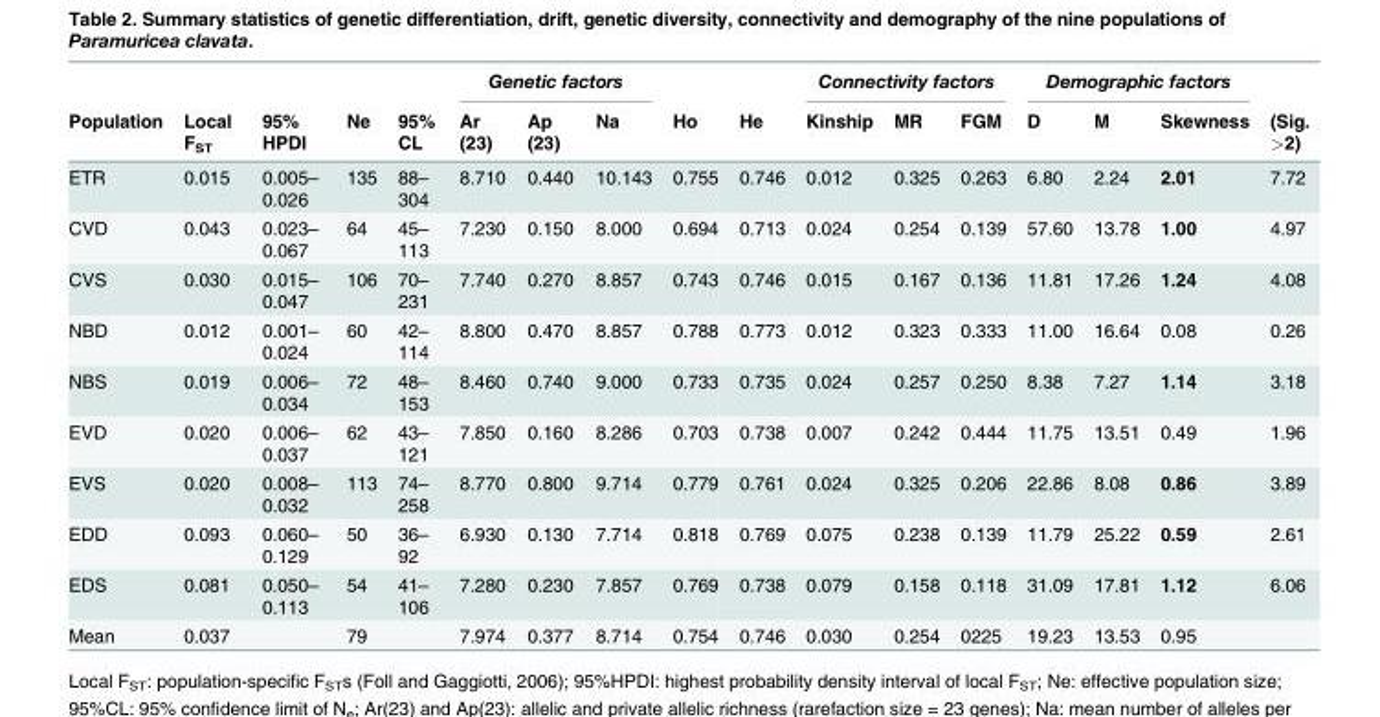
<table><thead><tr><td rowspan="2">Population</td><td rowspan="2">Local F<sub>ST</sub></td><td rowspan="2">95% HPDI</td><td rowspan="2">Ne</td><td rowspan="2">95% CL</td><td colspan="3">Genetic factors</td><td rowspan="2">Ho</td><td rowspan="2">He</td><td colspan="3">Connectivity factors</td><td colspan="3">Demographic factors</td><td rowspan="2">(Sig. &gt;2)</td></tr><tr><td>Ar (23)</td><td>Ap (23)</td><td>Na</td><td>Kinship</td><td>MR</td><td>FGM</td><td>D</td><td>M</td><td>Skewness</td></tr></thead><tbody><tr><td>ETR</td><td>0.015</td><td>0.005– 0.026</td><td>135</td><td>88– 304</td><td>8.710</td><td>0.440</td><td>10.143</td><td>0.755</td><td>0.746</td><td>0.012</td><td>0.325</td><td>0.263</td><td>6.80</td><td>2.24</td><td>2.01</td><td>7.72</td></tr><tr><td>CVD</td><td>0.043</td><td>0.023– 0.067</td><td>64</td><td>45– 113</td><td>7.230</td><td>0.150</td><td>8.000</td><td>0.694</td><td>0.713</td><td>0.024</td><td>0.254</td><td>0.139</td><td>57.60</td><td>13.78</td><td>1.00</td><td>4.97</td></tr><tr><td>CVS</td><td>0.030</td><td>0.015– 0.047</td><td>106</td><td>70– 231</td><td>7.740</td><td>0.270</td><td>8.857</td><td>0.743</td><td>0.746</td><td>0.015</td><td>0.167</td><td>0.136</td><td>11.81</td><td>17.26</td><td>1.24</td><td>4.08</td></tr><tr><td>NBD</td><td>0.012</td><td>0.001– 0.024</td><td>60</td><td>42– 114</td><td>8.800</td><td>0.470</td><td>8.857</td><td>0.788</td><td>0.773</td><td>0.012</td><td>0.323</td><td>0.333</td><td>11.00</td><td>16.64</td><td>0.08</td><td>0.26</td></tr><tr><td>NBS</td><td>0.019</td><td>0.006– 0.034</td><td>72</td><td>48– 153</td><td>8.460</td><td>0.740</td><td>9.000</td><td>0.733</td><td>0.735</td><td>0.024</td><td>0.257</td><td>0.250</td><td>8.38</td><td>7.27</td><td>1.14</td><td>3.18</td></tr><tr><td>EVD</td><td>0.020</td><td>0.006– 0.037</td><td>62</td><td>43– 121</td><td>7.850</td><td>0.160</td><td>8.286</td><td>0.703</td><td>0.738</td><td>0.007</td><td>0.242</td><td>0.444</td><td>11.75</td><td>13.51</td><td>0.49</td><td>1.96</td></tr><tr><td>EVS</td><td>0.020</td><td>0.008– 0.032</td><td>113</td><td>74– 258</td><td>8.770</td><td>0.800</td><td>9.714</td><td>0.779</td><td>0.761</td><td>0.024</td><td>0.325</td><td>0.206</td><td>22.86</td><td>8.08</td><td>0.86</td><td>3.89</td></tr><tr><td>EDD</td><td>0.093</td><td>0.060– 0.129</td><td>50</td><td>36– 92</td><td>6.930</td><td>0.130</td><td>7.714</td><td>0.818</td><td>0.769</td><td>0.075</td><td>0.238</td><td>0.139</td><td>11.79</td><td>25.22</td><td>0.59</td><td>2.61</td></tr><tr><td>EDS</td><td>0.081</td><td>0.050– 0.113</td><td>54</td><td>41– 106</td><td>7.280</td><td>0.230</td><td>7.857</td><td>0.769</td><td>0.738</td><td>0.079</td><td>0.158</td><td>0.118</td><td>31.09</td><td>17.81</td><td>1.12</td><td>6.06</td></tr><tr><td>Mean</td><td>0.037</td><td></td><td>79</td><td></td><td>7.974</td><td>0.377</td><td>8.714</td><td>0.754</td><td>0.746</td><td>0.030</td><td>0.254</td><td>0225</td><td>19.23</td><td>13.53</td><td>0.95</td><td></td></tr></tbody></table>